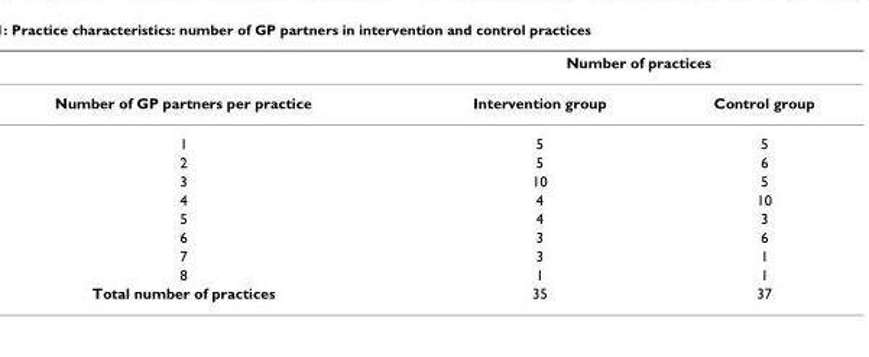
<table><thead><tr><td rowspan="2">Number of GP partners per practice</td><td colspan="2">Number of practices</td></tr><tr><td>Intervention group</td><td>Control group</td></tr></thead><tbody><tr><td>1</td><td>5</td><td>5</td></tr><tr><td>2</td><td>5</td><td>6</td></tr><tr><td>3</td><td>10</td><td>5</td></tr><tr><td>4</td><td>4</td><td>10</td></tr><tr><td>5</td><td>4</td><td>3</td></tr><tr><td>6</td><td>3</td><td>6</td></tr><tr><td>7</td><td>3</td><td>1</td></tr><tr><td>8</td><td>1</td><td>1</td></tr><tr><td>Total number of practices</td><td>35</td><td>37</td></tr></tbody></table>